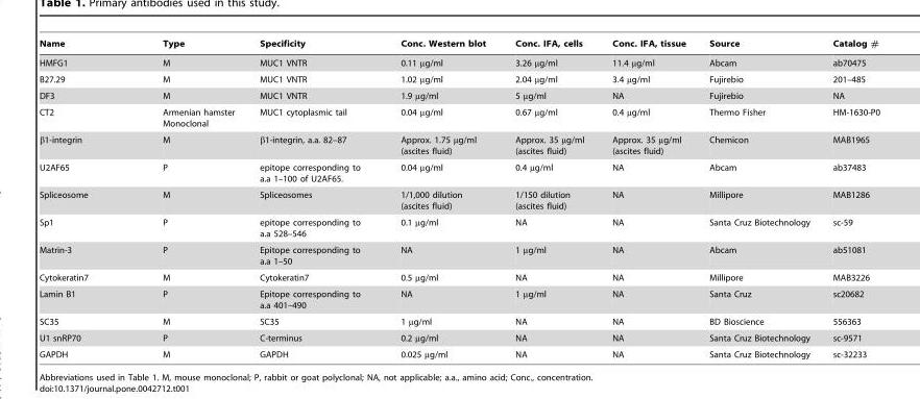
<table><thead><tr><td>Name</td><td>Type</td><td>Specificity</td><td>Conc. Western blot</td><td>Conc. IFA, cells</td><td>Conc. IFA, tissue</td><td>Source</td><td>Catalog #</td></tr></thead><tbody><tr><td>HMFG1</td><td>M</td><td>MUC1 VNTR</td><td>0.11 µg/ml</td><td>3.26 µg/ml</td><td>11.4 µg/ml</td><td>Abcam</td><td>ab70475</td></tr><tr><td>B27.29</td><td>M</td><td>MUC1 VNTR</td><td>1.02 µg/ml</td><td>2.04 µg/ml</td><td>3.4 µg/ml</td><td>Fujirebio</td><td>201–485</td></tr><tr><td>DF3</td><td>M</td><td>MUC1 VNTR</td><td>1.9 µg/ml</td><td>5 µg/ml</td><td>NA</td><td>Fujirebio</td><td>NA</td></tr><tr><td>CT2</td><td>Armenian hamster Monoclonal</td><td>MUC1 cytoplasmic tail</td><td>0.04 µg/ml</td><td>0.67 µg/ml</td><td>0.4 µg/ml</td><td>Thermo Fisher</td><td>HM-1630-P0</td></tr><tr><td>β1-integrin</td><td>M</td><td>β1-integrin, a.a. 82–87</td><td>Approx. 1.75 µg/ml (ascites fluid)</td><td>Approx. 35 µg/ml (ascites fluid)</td><td>Approx. 35 µg/ml (ascites fluid)</td><td>Chemicon</td><td>MAB1965</td></tr><tr><td>U2AF65</td><td>P</td><td>epitope corresponding to a.a 1–100 of U2AF65.</td><td>0.04 µg/ml</td><td>0.4 µg/ml</td><td>NA</td><td>Abcam</td><td>ab37483</td></tr><tr><td>Spliceosome</td><td>M</td><td>Spliceosomes</td><td>1/1,000 dilution (ascites fluid)</td><td>1/150 dilution (ascites fluid)</td><td>NA</td><td>Millipore</td><td>MAB1286</td></tr><tr><td>Sp1</td><td>P</td><td>epitope corresponding to a.a 528–546</td><td>0.1 µg/ml</td><td>NA</td><td>NA</td><td>Santa Cruz Biotechnology</td><td>sc-59</td></tr><tr><td>Matrin-3</td><td>P</td><td>Epitope corresponding to a.a 1–50</td><td>NA</td><td>1 µg/ml</td><td>NA</td><td>Abcam</td><td>ab51081</td></tr><tr><td>Cytokeratin7</td><td>M</td><td>Cytokeratin7</td><td>0.5 µg/ml</td><td>NA</td><td>NA</td><td>Millipore</td><td>MAB3226</td></tr><tr><td>Lamin B1</td><td>P</td><td>Epitope corresponding to a.a 401–490</td><td>NA</td><td>1 µg/ml</td><td>NA</td><td>Santa Cruz</td><td>sc20682</td></tr><tr><td>SC35</td><td>M</td><td>SC35</td><td>1 µg/ml</td><td>NA</td><td>NA</td><td>BD Bioscience</td><td>556363</td></tr><tr><td>U1 snRP70</td><td>P</td><td>C-terminus</td><td>0.2 µg/ml</td><td>NA</td><td>NA</td><td>Santa Cruz Biotechnology</td><td>sc-9571</td></tr><tr><td>GAPDH</td><td>M</td><td>GAPDH</td><td>0.025 µg/ml</td><td>NA</td><td>NA</td><td>Santa Cruz Biotechnology</td><td>sc-32233</td></tr></tbody></table>